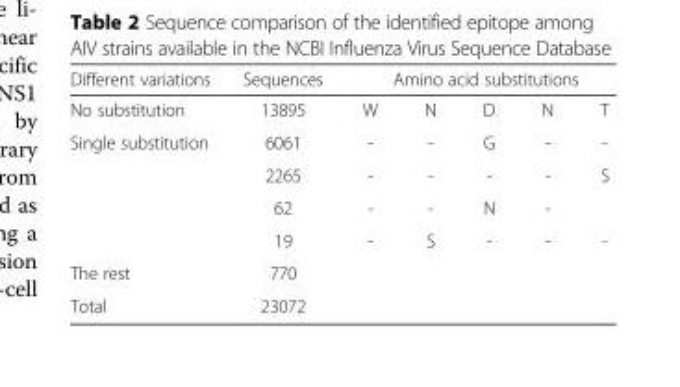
<table><thead><tr><td rowspan="2">Different variations No substitution</td><td rowspan="2">Sequences 13895</td><td colspan="5">Amino acid substitutions</td></tr><tr><td>W</td><td>N</td><td>D</td><td>N</td><td>T</td></tr></thead><tbody><tr><td rowspan="4">Single substitution</td><td>6061</td><td>-</td><td>-</td><td>G</td><td>-</td><td>-</td></tr><tr><td>2265</td><td>-</td><td>-</td><td>-</td><td>-</td><td>S</td></tr><tr><td>62</td><td>-</td><td>-</td><td>N</td><td>-</td><td></td></tr><tr><td>19</td><td>-</td><td>S</td><td>-</td><td>-</td><td>-</td></tr><tr><td>The rest</td><td>770</td><td></td><td></td><td></td><td></td><td></td></tr><tr><td>Total</td><td>23072</td><td></td><td></td><td></td><td></td><td></td></tr></tbody></table>